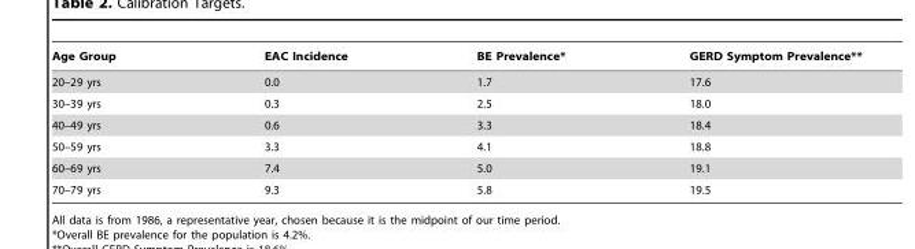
<table><thead><tr><td>Age Group</td><td>EAC Incidence</td><td>BE Prevalence*</td><td>GERD Symptom Prevalence**</td></tr></thead><tbody><tr><td>20–29 yrs</td><td>0.0</td><td>1.7</td><td>17.6</td></tr><tr><td>30–39 yrs</td><td>0.3</td><td>2.5</td><td>18.0</td></tr><tr><td>40–49 yrs</td><td>0.6</td><td>3.3</td><td>18.4</td></tr><tr><td>50–59 yrs</td><td>3.3</td><td>4.1</td><td>18.8</td></tr><tr><td>60–69 yrs</td><td>7.4</td><td>5.0</td><td>19.1</td></tr><tr><td>70–79 yrs</td><td>9.3</td><td>5.8</td><td>19.5</td></tr></tbody></table>